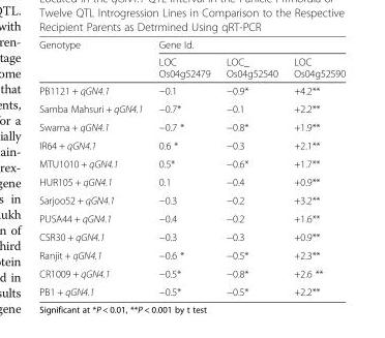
<table><thead><tr><td rowspan="2">Genotype</td><td colspan="3">Gene Id.</td></tr><tr><td>LOC Os04g52479</td><td>LOC_ Os04g52540</td><td>LOC Os04g52590</td></tr></thead><tbody><tr><td>PB1121 + qGN4.1</td><td>−0.1</td><td>−0.9*</td><td>+4.2**</td></tr><tr><td>Samba Mahsuri + qGN4.1</td><td>−0.7*</td><td>−0.1</td><td>+2.2**</td></tr><tr><td>Swarna + qGN4.1</td><td>−0.7 *</td><td>−0.8*</td><td>+1.9**</td></tr><tr><td>IR64 + qGN4.1</td><td>0.6 *</td><td>−0.3</td><td>+2.1**</td></tr><tr><td>MTU1010 + qGN4.1</td><td>0.5*</td><td>−0.6*</td><td>+1.7**</td></tr><tr><td>HUR105 + qGN4.1</td><td>0.1</td><td>−0.4</td><td>+0.9**</td></tr><tr><td>Sarjoo52 + qGN4.1</td><td>−0.3</td><td>−0.2</td><td>+3.2**</td></tr><tr><td>PUSA44 + qGN4.1</td><td>−0.4</td><td>−0.2</td><td>+1.6**</td></tr><tr><td>CSR30 + qGN4.1</td><td>−0.3</td><td>−0.3</td><td>+0.9**</td></tr><tr><td>Ranjit + qGN4.1</td><td>−0.6 *</td><td>−0.5*</td><td>+2.3**</td></tr><tr><td>CR1009 + qGN4.1</td><td>−0.5*</td><td>−0.8*</td><td>+2.6 **</td></tr><tr><td>PB1 + qGN4.1</td><td>−0.5*</td><td>−0.5*</td><td>+2.2**</td></tr></tbody></table>